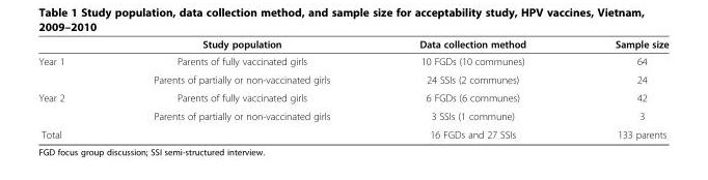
<table><thead><tr><td></td><td>Study population</td><td>Data collection method</td><td>Sample size</td></tr></thead><tbody><tr><td rowspan="2">Year 1</td><td>Parents of fully vaccinated girls</td><td>10 FGDs (10 communes)</td><td>64</td></tr><tr><td>Parents of partially or non-vaccinated girls</td><td>24 SSIs (2 communes)</td><td>24</td></tr><tr><td rowspan="2">Year 2</td><td>Parents of fully vaccinated girls</td><td>6 FGDs (6 communes)</td><td>42</td></tr><tr><td>Parents of partially or non-vaccinated girls</td><td>3 SSIs (1 commune)</td><td>3</td></tr><tr><td>Total</td><td></td><td>16 FGDs and 27 SSIs</td><td>133 parents</td></tr></tbody></table>